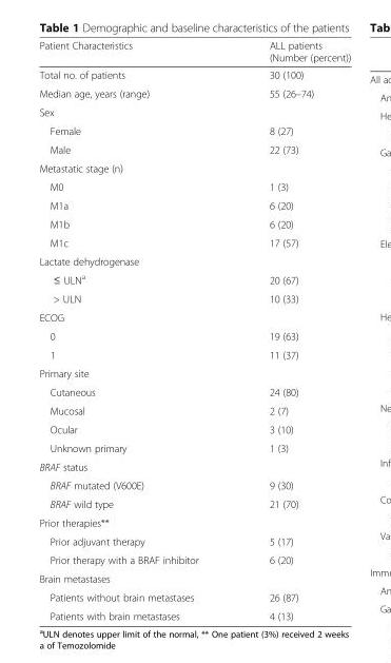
<table><thead><tr><td>Patient Characteristics</td><td>ALL patients (Number (percent))</td></tr></thead><tbody><tr><td>Total no. of patients</td><td>30 (100)</td></tr><tr><td>Median age, years (range)</td><td>55 (26–74)</td></tr><tr><td colspan="2">Sex</td></tr><tr><td>Female</td><td>8 (27)</td></tr><tr><td>Male</td><td>22 (73)</td></tr><tr><td colspan="2">Metastatic stage (n)</td></tr><tr><td>M0</td><td>1 (3)</td></tr><tr><td>M1a</td><td>6 (20)</td></tr><tr><td>M1b</td><td>6 (20)</td></tr><tr><td>M1c</td><td>17 (57)</td></tr><tr><td colspan="2">Lactate dehydrogenase</td></tr><tr><td>≤ ULN<sup>a</sup></td><td>20 (67)</td></tr><tr><td>&gt; ULN</td><td>10 (33)</td></tr><tr><td colspan="2">ECOG</td></tr><tr><td>0</td><td>19 (63)</td></tr><tr><td>1</td><td>11 (37)</td></tr><tr><td colspan="2">Primary site</td></tr><tr><td>Cutaneous</td><td>24 (80)</td></tr><tr><td>Mucosal</td><td>2 (7)</td></tr><tr><td>Ocular</td><td>3 (10)</td></tr><tr><td>Unknown primary</td><td>1 (3)</td></tr><tr><td colspan="2">BRAF status</td></tr><tr><td>BRAF mutated (V600E)</td><td>9 (30)</td></tr><tr><td>BRAF wild type</td><td>21 (70)</td></tr><tr><td colspan="2">Prior therapies**</td></tr><tr><td>Prior adjuvant therapy</td><td>5 (17)</td></tr><tr><td>Prior therapy with a BRAF inhibitor</td><td>6 (20)</td></tr><tr><td colspan="2">Brain metastases</td></tr><tr><td>Patients without brain metastases</td><td>26 (87)</td></tr><tr><td>Patients with brain metastases</td><td>4 (13)</td></tr></tbody></table>